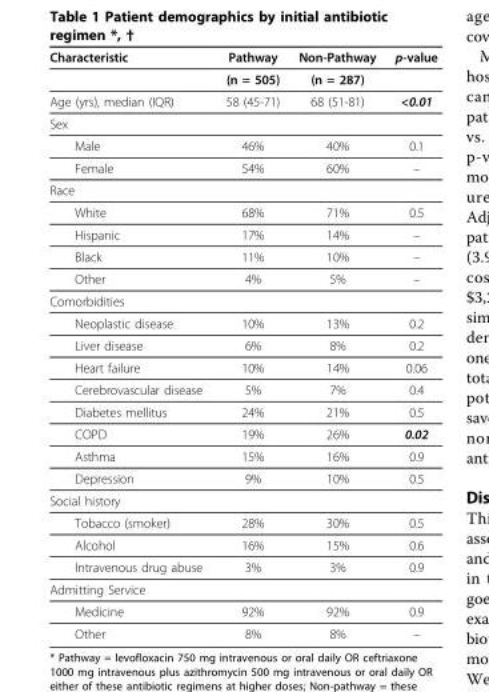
<table><thead><tr><td>Characteristic</td><td>Pathway</td><td>Non-Pathway</td><td>p-value</td></tr></thead><tbody><tr><td></td><td>(n = 505)</td><td>(n = 287)</td><td></td></tr><tr><td>Age (yrs), median (IQR)</td><td>58 (45-71)</td><td>68 (51-81)</td><td>&lt;0.01</td></tr><tr><td colspan="4">Sex</td></tr><tr><td>Male</td><td>46%</td><td>40%</td><td>0.1</td></tr><tr><td>Female</td><td>54%</td><td>60%</td><td>–</td></tr><tr><td colspan="4">Race</td></tr><tr><td>White</td><td>68%</td><td>71%</td><td>0.5</td></tr><tr><td>Hispanic</td><td>17%</td><td>14%</td><td>–</td></tr><tr><td>Black</td><td>11%</td><td>10%</td><td>–</td></tr><tr><td>Other</td><td>4%</td><td>5%</td><td>–</td></tr><tr><td colspan="4">Comorbidities</td></tr><tr><td>Neoplastic disease</td><td>10%</td><td>13%</td><td>0.2</td></tr><tr><td>Liver disease</td><td>6%</td><td>8%</td><td>0.2</td></tr><tr><td>Heart failure</td><td>10%</td><td>14%</td><td>0.06</td></tr><tr><td>Cerebrovascular disease</td><td>5%</td><td>7%</td><td>0.4</td></tr><tr><td>Diabetes mellitus</td><td>24%</td><td>21%</td><td>0.5</td></tr><tr><td>COPD</td><td>19%</td><td>26%</td><td>0.02</td></tr><tr><td>Asthma</td><td>15%</td><td>16%</td><td>0.9</td></tr><tr><td>Depression</td><td>9%</td><td>10%</td><td>0.5</td></tr><tr><td colspan="4">Social history</td></tr><tr><td>Tobacco (smoker)</td><td>28%</td><td>30%</td><td>0.5</td></tr><tr><td>Alcohol</td><td>16%</td><td>15%</td><td>0.6</td></tr><tr><td>Intravenous drug abuse</td><td>3%</td><td>3%</td><td>0.9</td></tr><tr><td colspan="4">Admitting Service</td></tr><tr><td>Medicine</td><td>92%</td><td>92%</td><td>0.9</td></tr><tr><td>Other</td><td>8%</td><td>8%</td><td>–</td></tr></tbody></table>